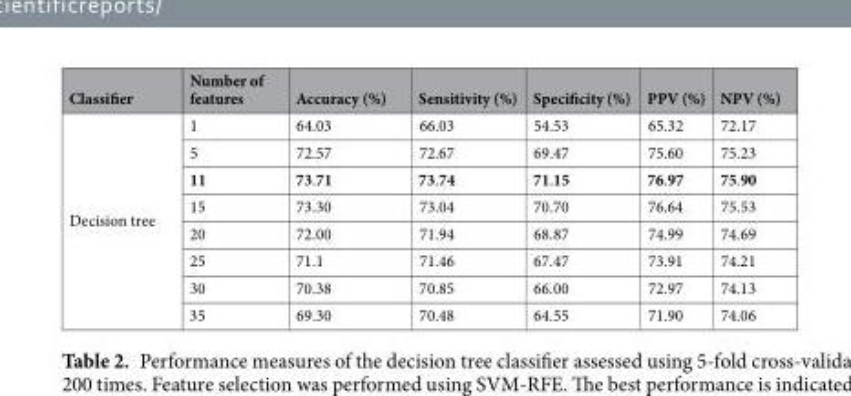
<table><thead><tr><td>Classifier</td><td>Number of features</td><td>Accuracy (%)</td><td>Sensitivity (%)</td><td>Specificity (%)</td><td>PPV (%)</td><td>NPV (%)</td></tr></thead><tbody><tr><td rowspan="8">Decision tree</td><td>1</td><td>64.03</td><td>66.03</td><td>54.53</td><td>65.32</td><td>72.17</td></tr><tr><td>5</td><td>72.57</td><td>72.67</td><td>69.47</td><td>75.60</td><td>75.23</td></tr><tr><td>11</td><td>73.71</td><td>73.74</td><td>71.15</td><td>76.97</td><td>75.90</td></tr><tr><td>15</td><td>73.30</td><td>73.04</td><td>70.70</td><td>76.64</td><td>75.53</td></tr><tr><td>20</td><td>72.00</td><td>71.94</td><td>68.87</td><td>74.99</td><td>74.69</td></tr><tr><td>25</td><td>71.1</td><td>71.46</td><td>67.47</td><td>73.91</td><td>74.21</td></tr><tr><td>30</td><td>70.38</td><td>70.85</td><td>66.00</td><td>72.97</td><td>74.13</td></tr><tr><td>35</td><td>69.30</td><td>70.48</td><td>64.55</td><td>71.90</td><td>74.06</td></tr></tbody></table>